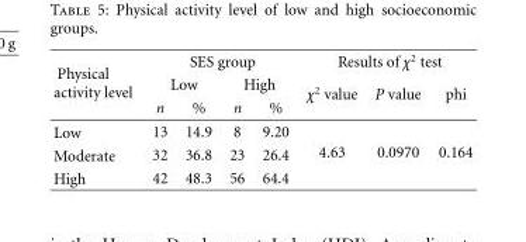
<table><thead><tr><td rowspan="3">Physical activity level</td><td colspan="4">SES group</td><td colspan="3">Results of χ<sup>2</sup> test</td></tr><tr><td colspan="2">Low</td><td colspan="2">High</td><td rowspan="2">χ<sup>2</sup> value</td><td rowspan="2">P value</td><td rowspan="2">phi</td></tr><tr><td>n</td><td>%</td><td>n</td><td>%</td></tr></thead><tbody><tr><td>Low</td><td>13</td><td>14.9</td><td>8</td><td>9.20</td><td rowspan="3">4.63</td><td rowspan="3">0.0970</td><td rowspan="3">0.164</td></tr><tr><td>Moderate</td><td>32</td><td>36.8</td><td>23</td><td>26.4</td></tr><tr><td>High</td><td>42</td><td>48.3</td><td>56</td><td>64.4</td></tr></tbody></table>